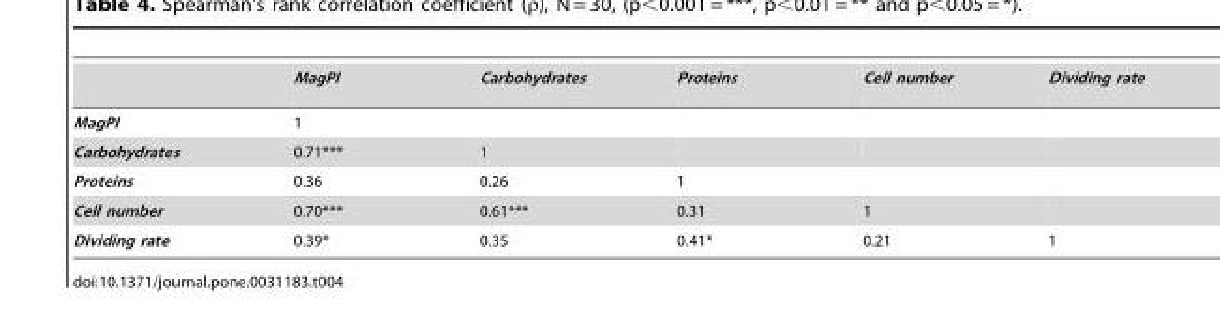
<table><thead><tr><td></td><td>MagPI</td><td>Carbohydrates</td><td>Proteins</td><td>Cell number</td><td>Dividing rate</td></tr></thead><tbody><tr><td>MagPI</td><td>1</td><td></td><td></td><td></td><td></td></tr><tr><td>Carbohydrates</td><td>0.71***</td><td>1</td><td></td><td></td><td></td></tr><tr><td>Proteins</td><td>0.36</td><td>0.26</td><td>1</td><td></td><td></td></tr><tr><td>Cell number</td><td>0.70***</td><td>0.61***</td><td>0.31</td><td>1</td><td></td></tr><tr><td>Dividing rate</td><td>0.39*</td><td>0.35</td><td>0.41*</td><td>0.21</td><td>1</td></tr></tbody></table>